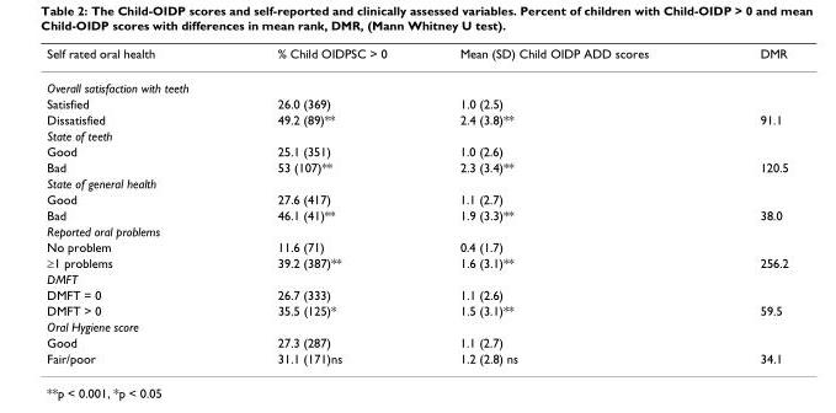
<table><thead><tr><td>Self rated oral health</td><td>% Child OIDPSC &gt; 0</td><td>Mean (SD) Child OIDP ADD scores</td><td>DMR</td></tr></thead><tbody><tr><td colspan="4">Overall satisfaction with teeth</td></tr><tr><td>Satisfied</td><td>26.0 (369)</td><td>1.0 (2.5)</td><td></td></tr><tr><td>Dissatisfied</td><td>49.2 (89)**</td><td>2.4 (3.8)**</td><td>91.1</td></tr><tr><td colspan="4">State of teeth</td></tr><tr><td>Good</td><td>25.1 (351)</td><td>1.0 (2.6)</td><td></td></tr><tr><td>Bad</td><td>53 (107)**</td><td>2.3 (3.4)**</td><td>120.5</td></tr><tr><td colspan="4">State of general health</td></tr><tr><td>Good</td><td>27.6 (417)</td><td>1.1 (2.7)</td><td></td></tr><tr><td>Bad</td><td>46.1 (41)**</td><td>1.9 (3.3)**</td><td>38.0</td></tr><tr><td colspan="4">Reported oral problems</td></tr><tr><td>No problem</td><td>11.6 (71)</td><td>0.4 (1.7)</td><td></td></tr><tr><td>≥1 problems</td><td>39.2 (387)**</td><td>1.6 (3.1)**</td><td>256.2</td></tr><tr><td colspan="4">DMFT</td></tr><tr><td>DMFT = 0</td><td>26.7 (333)</td><td>1.1 (2.6)</td><td></td></tr><tr><td>DMFT &gt; 0</td><td>35.5 (125)*</td><td>1.5 (3.1)**</td><td>59.5</td></tr><tr><td colspan="4">Oral Hygiene score</td></tr><tr><td>Good</td><td>27.3 (287)</td><td>1.1 (2.7)</td><td></td></tr><tr><td>Fair/poor</td><td>31.1 (171)ns</td><td>1.2 (2.8) ns</td><td>34.1</td></tr></tbody></table>